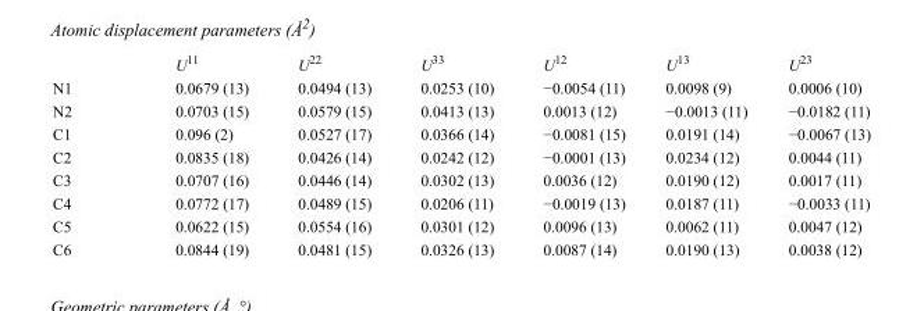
<table><thead><tr><td></td><td>U<sup>11</sup></td><td>U<sup>22</sup></td><td>U<sup>33</sup></td><td>U<sup>12</sup></td><td>U<sup>13</sup></td><td>U<sup>23</sup></td></tr></thead><tbody><tr><td>N1</td><td>0.0679 (13)</td><td>0.0494 (13)</td><td>0.0253 (10)</td><td>−0.0054 (11)</td><td>0.0098 (9)</td><td>0.0006 (10)</td></tr><tr><td>N2</td><td>0.0703 (15)</td><td>0.0579 (15)</td><td>0.0413 (13)</td><td>0.0013 (12)</td><td>−0.0013 (11)</td><td>−0.0182 (11)</td></tr><tr><td>C1</td><td>0.096 (2)</td><td>0.0527 (17)</td><td>0.0366 (14)</td><td>−0.0081 (15)</td><td>0.0191 (14)</td><td>−0.0067 (13)</td></tr><tr><td>C2</td><td>0.0835 (18)</td><td>0.0426 (14)</td><td>0.0242 (12)</td><td>−0.0001 (13)</td><td>0.0234 (12)</td><td>0.0044 (11)</td></tr><tr><td>C3</td><td>0.0707 (16)</td><td>0.0446 (14)</td><td>0.0302 (13)</td><td>0.0036 (12)</td><td>0.0190 (12)</td><td>0.0017 (11)</td></tr><tr><td>C4</td><td>0.0772 (17)</td><td>0.0489 (15)</td><td>0.0206 (11)</td><td>−0.0019 (13)</td><td>0.0187 (11)</td><td>−0.0033 (11)</td></tr><tr><td>C5</td><td>0.0622 (15)</td><td>0.0554 (16)</td><td>0.0301 (12)</td><td>0.0096 (13)</td><td>0.0062 (11)</td><td>0.0047 (12)</td></tr><tr><td>C6</td><td>0.0844 (19)</td><td>0.0481 (15)</td><td>0.0326 (13)</td><td>0.0087 (14)</td><td>0.0190 (13)</td><td>0.0038 (12)</td></tr></tbody></table>